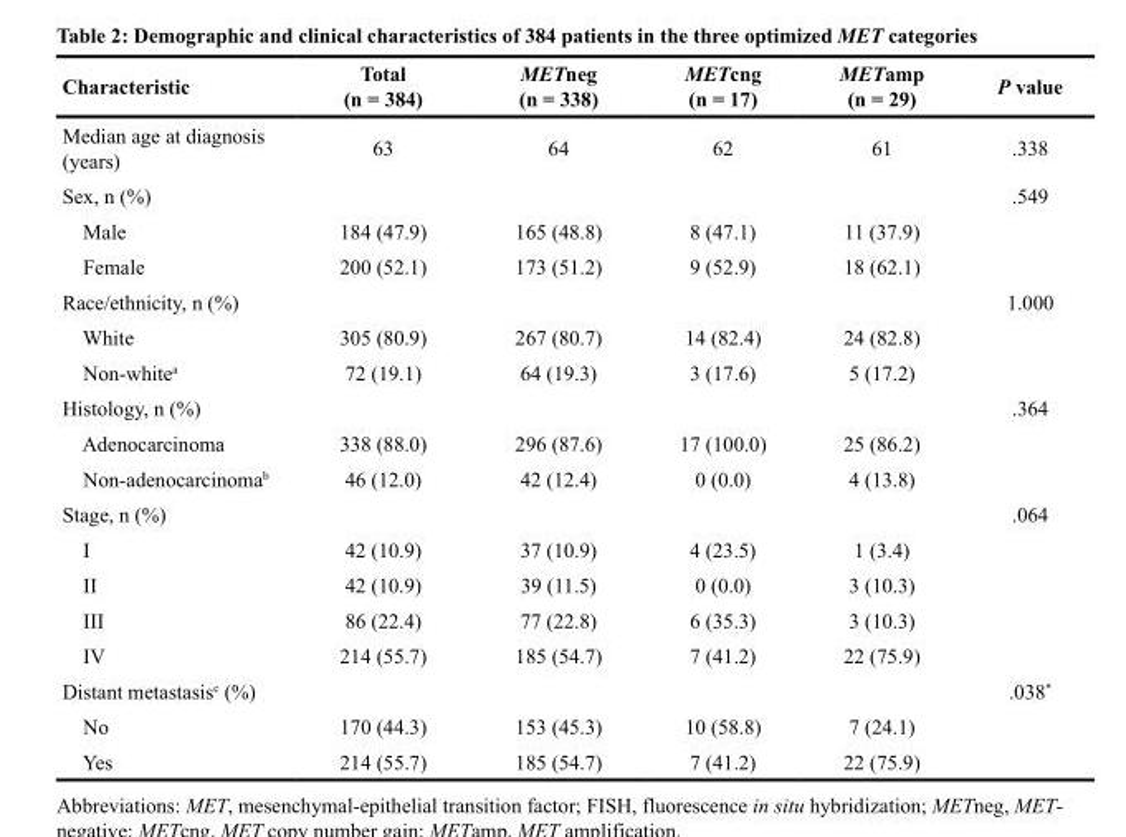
<table><thead><tr><td>Characteristic</td><td>Total (n = 384)</td><td>METneg (n = 338)</td><td>METcng (n = 17)</td><td>METamp (n = 29)</td><td>P value</td></tr></thead><tbody><tr><td>Median age at diagnosis (years)</td><td>63</td><td>64</td><td>62</td><td>61</td><td>.338</td></tr><tr><td>Sex, n (%)</td><td></td><td></td><td></td><td></td><td>.549</td></tr><tr><td>Male</td><td>184 (47.9)</td><td>165 (48.8)</td><td>8 (47.1)</td><td>11 (37.9)</td><td></td></tr><tr><td>Female</td><td>200 (52.1)</td><td>173 (51.2)</td><td>9 (52.9)</td><td>18 (62.1)</td><td></td></tr><tr><td>Race/ethnicity, n (%)</td><td></td><td></td><td></td><td></td><td>1.000</td></tr><tr><td>White</td><td>305 (80.9)</td><td>267 (80.7)</td><td>14 (82.4)</td><td>24 (82.8)</td><td></td></tr><tr><td>Non-white<sup>a</sup></td><td>72 (19.1)</td><td>64 (19.3)</td><td>3 (17.6)</td><td>5 (17.2)</td><td></td></tr><tr><td>Histology, n (%)</td><td></td><td></td><td></td><td></td><td>.364</td></tr><tr><td>Adenocarcinoma</td><td>338 (88.0)</td><td>296 (87.6)</td><td>17 (100.0)</td><td>25 (86.2)</td><td></td></tr><tr><td>Non-adenocarcinoma<sup>b</sup></td><td>46 (12.0)</td><td>42 (12.4)</td><td>0 (0.0)</td><td>4 (13.8)</td><td></td></tr><tr><td>Stage, n (%)</td><td></td><td></td><td></td><td></td><td>.064</td></tr><tr><td>I</td><td>42 (10.9)</td><td>37 (10.9)</td><td>4 (23.5)</td><td>1 (3.4)</td><td></td></tr><tr><td>II</td><td>42 (10.9)</td><td>39 (11.5)</td><td>0 (0.0)</td><td>3 (10.3)</td><td></td></tr><tr><td>III</td><td>86 (22.4)</td><td>77 (22.8)</td><td>6 (35.3)</td><td>3 (10.3)</td><td></td></tr><tr><td>IV</td><td>214 (55.7)</td><td>185 (54.7)</td><td>7 (41.2)</td><td>22 (75.9)</td><td></td></tr><tr><td>Distant metastasis<sup>c</sup> (%)</td><td></td><td></td><td></td><td></td><td>.038*</td></tr><tr><td>No</td><td>170 (44.3)</td><td>153 (45.3)</td><td>10 (58.8)</td><td>7 (24.1)</td><td></td></tr><tr><td>Yes</td><td>214 (55.7)</td><td>185 (54.7)</td><td>7 (41.2)</td><td>22 (75.9)</td><td></td></tr></tbody></table>